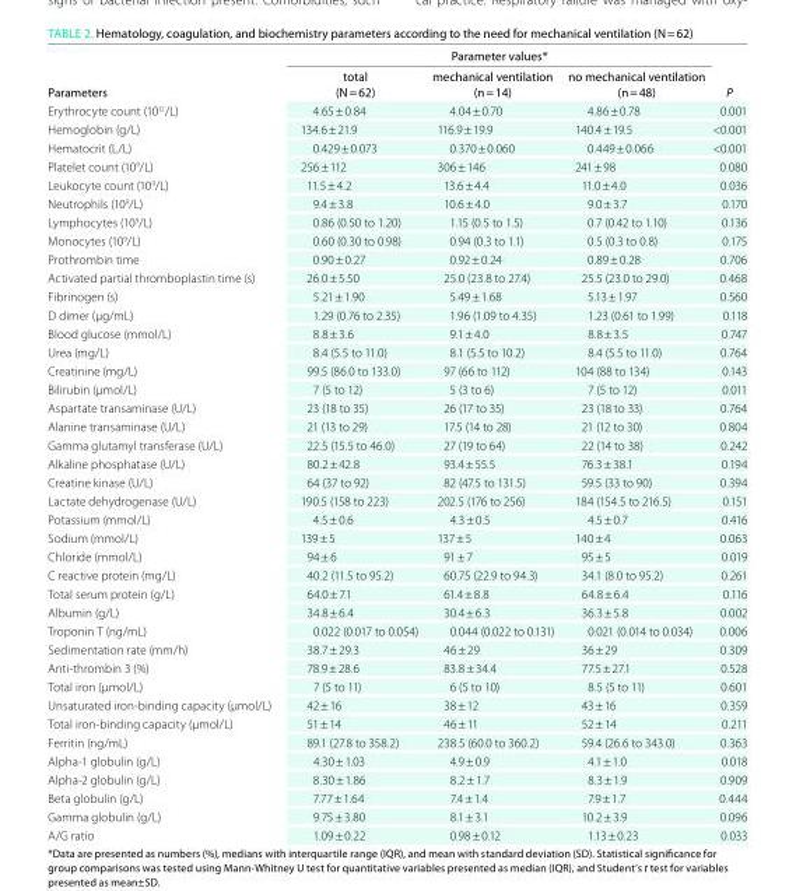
<table><thead><tr><td rowspan="2">Parameters</td><td colspan="3">Parameter values*</td><td rowspan="2">P</td></tr><tr><td>total (N = 62)</td><td>mechanical ventilation (n = 14)</td><td>no mechanical ventilation (n = 48)</td></tr></thead><tbody><tr><td>Erythrocyte count (10<sup>12</sup>/L)</td><td>4.65 ± 0.84</td><td>4.04 ± 0.70</td><td>4.86 ± 0.78</td><td>0.001</td></tr><tr><td>Hemoglobin (g/L)</td><td>134.6 ± 21.9</td><td>116.9 ± 19.9</td><td>140.4 ± 19.5</td><td>&lt;0.001</td></tr><tr><td>Hematocrit (L/L)</td><td>0.429 ± 0.073</td><td>0.370 ± 0.060</td><td>0.449 ± 0.066</td><td>&lt;0.001</td></tr><tr><td>Platelet count (10<sup>9</sup>/L)</td><td>256 ± 112</td><td>306 ± 146</td><td>241 ± 98</td><td>0.080</td></tr><tr><td>Leukocyte count (10<sup>9</sup>/L)</td><td>11.5 ± 4.2</td><td>13.6 ± 4.4</td><td>11.0 ± 4.0</td><td>0.036</td></tr><tr><td>Neutrophils (10<sup>9</sup>/L)</td><td>9.4 ± 3.8</td><td>10.6 ± 4.0</td><td>9.0 ± 3.7</td><td>0.170</td></tr><tr><td>Lymphocytes (10<sup>9</sup>/L)</td><td>0.86 (0.50 to 1.20)</td><td>1.15 (0.5 to 1.5)</td><td>0.7 (0.42 to 1.10)</td><td>0.136</td></tr><tr><td>Monocytes (10<sup>9</sup>/L)</td><td>0.60 (0.30 to 0.98)</td><td>0.94 (0.3 to 1.1)</td><td>0.5 (0.3 to 0.8)</td><td>0.175</td></tr><tr><td>Prothrombin time</td><td>0.90 ± 0.27</td><td>0.92 ± 0.24</td><td>0.89 ± 0.28</td><td>0.706</td></tr><tr><td>Activated partial thromboplastin time (s)</td><td>26.0 ± 5.50</td><td>25.0 (23.8 to 27.4)</td><td>25.5 (23.0 to 29.0)</td><td>0.468</td></tr><tr><td>Fibrinogen (s)</td><td>5.21 ± 1.90</td><td>5.49 ± 1.68</td><td>5.13 ± 1.97</td><td>0.560</td></tr><tr><td>D dimer (μg/mL)</td><td>1.29 (0.76 to 2.35)</td><td>1.96 (1.09 to 4.35)</td><td>1.23 (0.61 to 1.99)</td><td>0.118</td></tr><tr><td>Blood glucose (mmol/L)</td><td>8.8 ± 3.6</td><td>9.1 ± 4.0</td><td>8.8 ± 3.5</td><td>0.747</td></tr><tr><td>Urea (mg/L)</td><td>8.4 (5.5 to 11.0)</td><td>8.1 (5.5 to 10.2)</td><td>8.4 (5.5 to 11.0)</td><td>0.764</td></tr><tr><td>Creatinine (mg/L)</td><td>99.5 (86.0 to 133.0)</td><td>97 (66 to 112)</td><td>104 (88 to 134)</td><td>0.143</td></tr><tr><td>Bilirubin (μmol/L)</td><td>7 (5 to 12)</td><td>5 (3 to 6)</td><td>7 (5 to 12)</td><td>0.011</td></tr><tr><td>Aspartate transaminase (U/L)</td><td>23 (18 to 35)</td><td>26 (17 to 35)</td><td>23 (18 to 33)</td><td>0.764</td></tr><tr><td>Alanine transaminase (U/L)</td><td>21 (13 to 29)</td><td>17.5 (14 to 28)</td><td>21 (12 to 30)</td><td>0.804</td></tr><tr><td>Gamma glutamyl transferase (U/L)</td><td>22.5 (15.5 to 46.0)</td><td>27 (19 to 64)</td><td>22 (14 to 38)</td><td>0.242</td></tr><tr><td>Alkaline phosphatase (U/L)</td><td>80.2 ± 42.8</td><td>93.4 ± 55.5</td><td>76.3 ± 38.1</td><td>0.194</td></tr><tr><td>Creatine kinase (U/L)</td><td>64 (37 to 92)</td><td>82 (47.5 to 131.5)</td><td>59.5 (33 to 90)</td><td>0.394</td></tr><tr><td>Lactate dehydrogenase (U/L)</td><td>190.5 (158 to 223)</td><td>202.5 (176 to 256)</td><td>184 (154.5 to 216.5)</td><td>0.151</td></tr><tr><td>Potassium (mmol/L)</td><td>4.5 ± 0.6</td><td>4.3 ± 0.5</td><td>4.5 ± 0.7</td><td>0.416</td></tr><tr><td>Sodium (mmol/L)</td><td>139 ± 5</td><td>137 ± 5</td><td>140 ± 4</td><td>0.063</td></tr><tr><td>Chloride (mmol/L)</td><td>94 ± 6</td><td>91 ± 7</td><td>95 ± 5</td><td>0.019</td></tr><tr><td>C reactive protein (mg/L)</td><td>40.2 (11.5 to 95.2)</td><td>60.75 (22.9 to 94.3)</td><td>34.1 (8.0 to 95.2)</td><td>0.261</td></tr><tr><td>Total serum protein (g/L)</td><td>64.0 ± 7.1</td><td>61.4 ± 8.8</td><td>64.8 ± 6.4</td><td>0.116</td></tr><tr><td>Albumin (g/L)</td><td>34.8 ± 6.4</td><td>30.4 ± 6.3</td><td>36.3 ± 5.8</td><td>0.002</td></tr><tr><td>Troponin T (ng/mL)</td><td>0.022 (0.017 to 0.054)</td><td>0.044 (0.022 to 0.131)</td><td>0.021 (0.014 to 0.034)</td><td>0.006</td></tr><tr><td>Sedimentation rate (mm/h)</td><td>38.7 ± 29.3</td><td>46 ± 29</td><td>36 ± 29</td><td>0.309</td></tr><tr><td>Anti-thrombin 3 (%)</td><td>78.9 ± 28.6</td><td>83.8 ± 34.4</td><td>77.5 ± 27.1</td><td>0.528</td></tr><tr><td>Total iron (µmol/L)</td><td>7 (5 to 11)</td><td>6 (5 to 10)</td><td>8.5 (5 to 11)</td><td>0.601</td></tr><tr><td>Unsaturated iron-binding capacity (µmol/L)</td><td>42 ± 16</td><td>38 ± 12</td><td>43 ± 16</td><td>0.359</td></tr><tr><td>Total iron-binding capacity (µmol/L)</td><td>51 ± 14</td><td>46 ± 11</td><td>52 ± 14</td><td>0.211</td></tr><tr><td>Ferritin (ng/mL)</td><td>89.1 (27.8 to 358.2)</td><td>238.5 (60.0 to 360.2)</td><td>59.4 (26.6 to 343.0)</td><td>0.363</td></tr><tr><td>Alpha-1 globulin (g/L)</td><td>4.30 ± 1.03</td><td>4.9 ± 0.9</td><td>4.1 ± 1.0</td><td>0.018</td></tr><tr><td>Alpha-2 globulin (g/L)</td><td>8.30 ± 1.86</td><td>8.2 ± 1.7</td><td>8.3 ± 1.9</td><td>0.909</td></tr><tr><td>Beta globulin (g/L)</td><td>7.77 ± 1.64</td><td>7.4 ± 1.4</td><td>7.9 ± 1.7</td><td>0.444</td></tr><tr><td>Gamma globulin (g/L)</td><td>9.75 ± 3.80</td><td>8.1 ± 3.1</td><td>10.2 ± 3.9</td><td>0.096</td></tr><tr><td>A/G ratio</td><td>1.09 ± 0.22</td><td>0.98 ± 0.12</td><td>1.13 ± 0.23</td><td>0.033</td></tr></tbody></table>